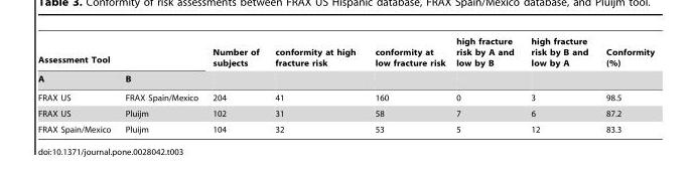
<table><thead><tr><td colspan="2">Assessment Tool</td><td rowspan="2">Number of subjects</td><td rowspan="2">conformity at high fracture risk</td><td rowspan="2">conformity at low fracture risk</td><td rowspan="2">high fracture risk by A and low by B</td><td rowspan="2">high fracture risk by B and low by A</td><td rowspan="2">Conformity (%)</td></tr><tr><td>A</td><td>B</td></tr></thead><tbody><tr><td>FRAX US</td><td>FRAX Spain/Mexico</td><td>204</td><td>41</td><td>160</td><td>0</td><td>3</td><td>98.5</td></tr><tr><td>FRAX US</td><td>Pluijm</td><td>102</td><td>31</td><td>58</td><td>7</td><td>6</td><td>87.2</td></tr><tr><td>FRAX Spain/Mexico</td><td>Pluijm</td><td>104</td><td>32</td><td>53</td><td>5</td><td>12</td><td>83.3</td></tr></tbody></table>